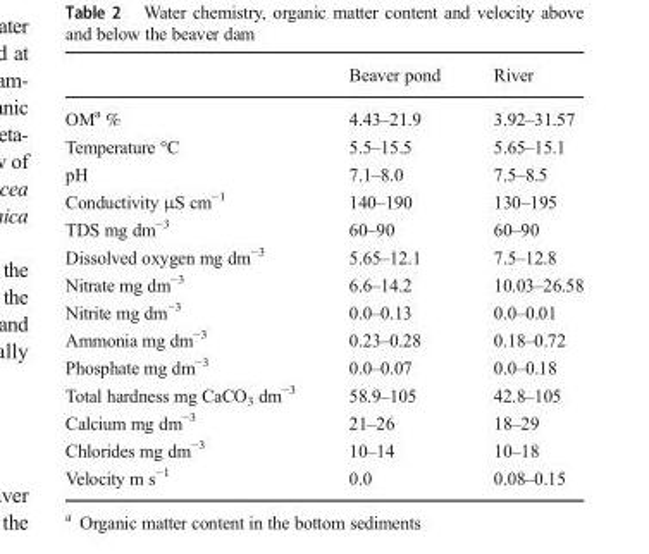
<table><thead><tr><td></td><td>Beaver pond</td><td>River</td></tr></thead><tbody><tr><td>OM<sup>a</sup> %</td><td>4.43–21.9</td><td>3.92–31.57</td></tr><tr><td>Temperature °C</td><td>5.5–15.5</td><td>5.65–15.1</td></tr><tr><td>pH</td><td>7.1–8.0</td><td>7.5–8.5</td></tr><tr><td>Conductivity μS cm<sup>−1</sup></td><td>140–190</td><td>130–195</td></tr><tr><td>TDS mg dm<sup>−3</sup></td><td>60–90</td><td>60–90</td></tr><tr><td>Dissolved oxygen mg dm<sup>−3</sup></td><td>5.65–12.1</td><td>7.5–12.8</td></tr><tr><td>Nitrate mg dm<sup>−3</sup></td><td>6.6–14.2</td><td>10.03–26.58</td></tr><tr><td>Nitrite mg dm<sup>−3</sup></td><td>0.0–0.13</td><td>0.0–0.01</td></tr><tr><td>Ammonia mg dm<sup>−3</sup></td><td>0.23–0.28</td><td>0.18–0.72</td></tr><tr><td>Phosphate mg dm<sup>−3</sup></td><td>0.0–0.07</td><td>0.0–0.18</td></tr><tr><td>Total hardness mg CaCO<sub>3</sub> dm<sup>−3</sup></td><td>58.9–105</td><td>42.8–105</td></tr><tr><td>Calcium mg dm<sup>−3</sup></td><td>21–26</td><td>18–29</td></tr><tr><td>Chlorides mg dm<sup>−3</sup></td><td>10–14</td><td>10–18</td></tr><tr><td>Velocity m s<sup>−1</sup></td><td>0.0</td><td>0.08–0.15</td></tr></tbody></table>